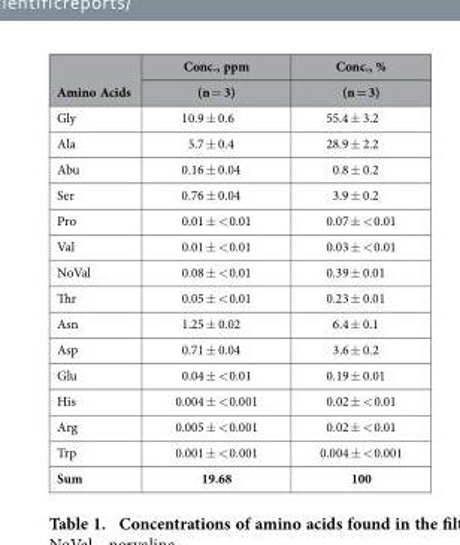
<table><thead><tr><td rowspan="2">Amino Acids</td><td rowspan="2">Conc., ppm (n = 3)</td><td rowspan="2">Conc., % (n = 3)</td></tr><tr></tr></thead><tbody><tr><td>Gly</td><td>10.9 ± 0.6</td><td>55.4 ± 3.2</td></tr><tr><td>Ala</td><td>5.7 ± 0.4</td><td>28.9 ± 2.2</td></tr><tr><td>Abu</td><td>0.16 ± 0.04</td><td>0.8 ± 0.2</td></tr><tr><td>Ser</td><td>0.76 ± 0.04</td><td>3.9 ± 0.2</td></tr><tr><td>Pro</td><td>0.01 ± &lt; 0.01</td><td>0.07 ± &lt; 0.01</td></tr><tr><td>Val</td><td>0.01 ± &lt; 0.01</td><td>0.03 ± &lt; 0.01</td></tr><tr><td>NoVal</td><td>0.08 ± &lt; 0.01</td><td>0.39 ± 0.01</td></tr><tr><td>Thr</td><td>0.05 ± &lt; 0.01</td><td>0.23 ± 0.01</td></tr><tr><td>Asn</td><td>1.25 ± 0.02</td><td>6.4 ± 0.1</td></tr><tr><td>Asp</td><td>0.71 ± 0.04</td><td>3.6 ± 0.2</td></tr><tr><td>Glu</td><td>0.04 ± &lt; 0.01</td><td>0.19 ± 0.01</td></tr><tr><td>His</td><td>0.004 ± &lt; 0.001</td><td>0.02 ± &lt; 0.01</td></tr><tr><td>Arg</td><td>0.005 ± &lt; 0.001</td><td>0.02 ± &lt; 0.01</td></tr><tr><td>Trp</td><td>0.001 ± &lt; 0.001</td><td>0.004 ± &lt; 0.001</td></tr><tr><td>Sum</td><td>19.68</td><td>100</td></tr></tbody></table>